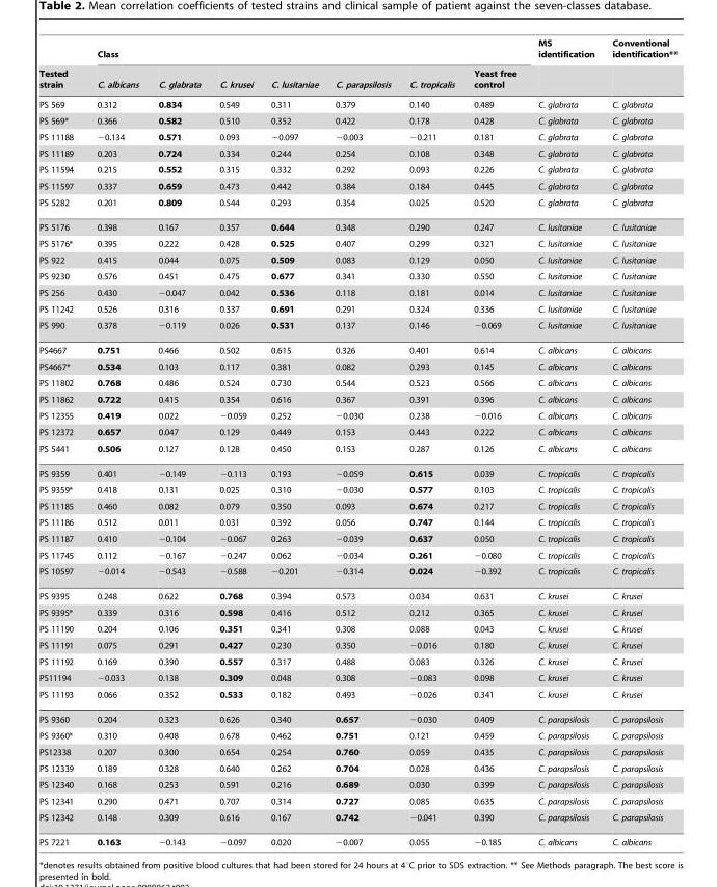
<table><thead><tr><td rowspan="2">Tested strain</td><td colspan="7">Class</td><td rowspan="2">MS identification</td><td rowspan="2">Conventional identification**</td></tr><tr><td>C. albicans</td><td>C. glabrata</td><td>C. krusei</td><td>C. lusitaniae</td><td>C. parapsilosis</td><td>C. tropicalis</td><td>Yeast free control</td></tr></thead><tbody><tr><td>PS 569</td><td>0.312</td><td>0.834</td><td>0.549</td><td>0.311</td><td>0.379</td><td>0.140</td><td>0.489</td><td>C. glabrata</td><td>C. glabrata</td></tr><tr><td>PS 569*</td><td>0.366</td><td>0.582</td><td>0.510</td><td>0.352</td><td>0.422</td><td>0.178</td><td>0.428</td><td>C. glabrata</td><td>C. glabrata</td></tr><tr><td>PS 11188</td><td>−0.134</td><td>0.571</td><td>0.093</td><td>−0.097</td><td>−0.003</td><td>−0.211</td><td>0.181</td><td>C. glabrata</td><td>C. glabrata</td></tr><tr><td>PS 11189</td><td>0.203</td><td>0.724</td><td>0.334</td><td>0.244</td><td>0.254</td><td>0.108</td><td>0.348</td><td>C. glabrata</td><td>C. glabrata</td></tr><tr><td>PS 11594</td><td>0.215</td><td>0.552</td><td>0.315</td><td>0.332</td><td>0.292</td><td>0.093</td><td>0.226</td><td>C. glabrata</td><td>C. glabrata</td></tr><tr><td>PS 11597</td><td>0.337</td><td>0.659</td><td>0.473</td><td>0.442</td><td>0.384</td><td>0.184</td><td>0.445</td><td>C. glabrata</td><td>C. glabrata</td></tr><tr><td>PS 5282</td><td>0.201</td><td>0.809</td><td>0.544</td><td>0.293</td><td>0.354</td><td>0.025</td><td>0.520</td><td>C. glabrata</td><td>C. glabrata</td></tr><tr><td>PS 5176</td><td>0.398</td><td>0.167</td><td>0.357</td><td>0.644</td><td>0.348</td><td>0.290</td><td>0.247</td><td>C. lusitaniae</td><td>C. lusitaniae</td></tr><tr><td>PS 5176*</td><td>0.395</td><td>0.222</td><td>0.428</td><td>0.525</td><td>0.407</td><td>0.299</td><td>0.321</td><td>C. lusitaniae</td><td>C. lusitaniae</td></tr><tr><td>PS 922</td><td>0.415</td><td>0.044</td><td>0.075</td><td>0.509</td><td>0.083</td><td>0.129</td><td>0.050</td><td>C. lusitaniae</td><td>C. lusitaniae</td></tr><tr><td>PS 9230</td><td>0.576</td><td>0.451</td><td>0.475</td><td>0.677</td><td>0.341</td><td>0.330</td><td>0.550</td><td>C. lusitaniae</td><td>C. lusitaniae</td></tr><tr><td>PS 256</td><td>0.430</td><td>−0.047</td><td>0.042</td><td>0.536</td><td>0.118</td><td>0.181</td><td>0.014</td><td>C. lusitaniae</td><td>C. lusitaniae</td></tr><tr><td>PS 11242</td><td>0.526</td><td>0.316</td><td>0.337</td><td>0.691</td><td>0.291</td><td>0.324</td><td>0.336</td><td>C. lusitaniae</td><td>C. lusitaniae</td></tr><tr><td>PS 990</td><td>0.378</td><td>−0.119</td><td>0.026</td><td>0.531</td><td>0.137</td><td>0.146</td><td>−0.069</td><td>C. lusitaniae</td><td>C. lusitaniae</td></tr><tr><td>PS4667</td><td>0.751</td><td>0.466</td><td>0.502</td><td>0.615</td><td>0.326</td><td>0.401</td><td>0.614</td><td>C. albicans</td><td>C. albicans</td></tr><tr><td>PS4667*</td><td>0.534</td><td>0.103</td><td>0.117</td><td>0.381</td><td>0.082</td><td>0.293</td><td>0.145</td><td>C. albicans</td><td>C. albicans</td></tr><tr><td>PS 11802</td><td>0.768</td><td>0.486</td><td>0.524</td><td>0.730</td><td>0.544</td><td>0.523</td><td>0.566</td><td>C. albicans</td><td>C. albicans</td></tr><tr><td>PS 11862</td><td>0.722</td><td>0.415</td><td>0.354</td><td>0.616</td><td>0.367</td><td>0.391</td><td>0.396</td><td>C. albicans</td><td>C. albicans</td></tr><tr><td>PS 12355</td><td>0.419</td><td>0.022</td><td>−0.059</td><td>0.252</td><td>−0.030</td><td>0.238</td><td>−0.016</td><td>C. albicans</td><td>C. albicans</td></tr><tr><td>PS 12372</td><td>0.657</td><td>0.047</td><td>0.129</td><td>0.449</td><td>0.153</td><td>0.443</td><td>0.222</td><td>C. albicans</td><td>C. albicans</td></tr><tr><td>PS 5441</td><td>0.506</td><td>0.127</td><td>0.128</td><td>0.450</td><td>0.153</td><td>0.287</td><td>0.126</td><td>C. albicans</td><td>C. albicans</td></tr><tr><td>PS 9359</td><td>0.401</td><td>−0.149</td><td>−0.113</td><td>0.193</td><td>−0.059</td><td>0.615</td><td>0.039</td><td>C. tropicalis</td><td>C. tropicalis</td></tr><tr><td>PS 9359*</td><td>0.418</td><td>0.131</td><td>0.025</td><td>0.310</td><td>−0.030</td><td>0.577</td><td>0.103</td><td>C. tropicalis</td><td>C. tropicalis</td></tr><tr><td>PS 11185</td><td>0.460</td><td>0.082</td><td>0.079</td><td>0.350</td><td>0.093</td><td>0.674</td><td>0.217</td><td>C. tropicalis</td><td>C. tropicalis</td></tr><tr><td>PS 11186</td><td>0.512</td><td>0.011</td><td>0.031</td><td>0.392</td><td>0.056</td><td>0.747</td><td>0.144</td><td>C. tropicalis</td><td>C. tropicalis</td></tr><tr><td>PS 11187</td><td>0.410</td><td>−0.104</td><td>−0.067</td><td>0.263</td><td>−0.039</td><td>0.637</td><td>0.050</td><td>C. tropicalis</td><td>C. tropicalis</td></tr><tr><td>PS 11745</td><td>0.112</td><td>−0.167</td><td>−0.247</td><td>0.062</td><td>−0.034</td><td>0.261</td><td>−0.080</td><td>C. tropicalis</td><td>C. tropicalis</td></tr><tr><td>PS 10597</td><td>−0.014</td><td>−0.543</td><td>−0.588</td><td>−0.201</td><td>−0.314</td><td>0.024</td><td>−0.392</td><td>C. tropicalis</td><td>C. tropicalis</td></tr><tr><td>PS 9395</td><td>0.248</td><td>0.622</td><td>0.768</td><td>0.394</td><td>0.573</td><td>0.034</td><td>0.631</td><td>C. krusei</td><td>C. krusei</td></tr><tr><td>PS 9395*</td><td>0.339</td><td>0.316</td><td>0.598</td><td>0.416</td><td>0.512</td><td>0.212</td><td>0.365</td><td>C. krusei</td><td>C. krusei</td></tr><tr><td>PS 11190</td><td>0.204</td><td>0.106</td><td>0.351</td><td>0.341</td><td>0.308</td><td>0.088</td><td>0.043</td><td>C. krusei</td><td>C. krusei</td></tr><tr><td>PS 11191</td><td>0.075</td><td>0.291</td><td>0.427</td><td>0.230</td><td>0.350</td><td>−0.016</td><td>0.180</td><td>C. krusei</td><td>C. krusei</td></tr><tr><td>PS 11192</td><td>0.169</td><td>0.390</td><td>0.557</td><td>0.317</td><td>0.488</td><td>0.083</td><td>0.326</td><td>C. krusei</td><td>C. krusei</td></tr><tr><td>PS11194</td><td>−0.033</td><td>0.138</td><td>0.309</td><td>0.048</td><td>0.308</td><td>−0.083</td><td>0.098</td><td>C. krusei</td><td>C. krusei</td></tr><tr><td>PS 11193</td><td>0.066</td><td>0.352</td><td>0.533</td><td>0.182</td><td>0.493</td><td>−0.026</td><td>0.341</td><td>C. krusei</td><td>C. krusei</td></tr><tr><td>PS 9360</td><td>0.204</td><td>0.323</td><td>0.626</td><td>0.340</td><td>0.657</td><td>−0.030</td><td>0.409</td><td>C. parapsilosis</td><td>C. parapsilosis</td></tr><tr><td>PS 9360*</td><td>0.310</td><td>0.408</td><td>0.678</td><td>0.462</td><td>0.751</td><td>0.121</td><td>0.459</td><td>C. parapsilosis</td><td>C. parapsilosis</td></tr><tr><td>PS12338</td><td>0.207</td><td>0.300</td><td>0.654</td><td>0.254</td><td>0.760</td><td>0.059</td><td>0.435</td><td>C. parapsilosis</td><td>C. parapsilosis</td></tr><tr><td>PS 12339</td><td>0.189</td><td>0.328</td><td>0.640</td><td>0.262</td><td>0.704</td><td>0.028</td><td>0.436</td><td>C. parapsilosis</td><td>C. parapsilosis</td></tr><tr><td>PS 12340</td><td>0.168</td><td>0.253</td><td>0.591</td><td>0.216</td><td>0.689</td><td>0.030</td><td>0.399</td><td>C. parapsilosis</td><td>C. parapsilosis</td></tr><tr><td>PS 12341</td><td>0.290</td><td>0.471</td><td>0.707</td><td>0.314</td><td>0.727</td><td>0.085</td><td>0.635</td><td>C. parapsilosis</td><td>C. parapsilosis</td></tr><tr><td>PS 12342</td><td>0.148</td><td>0.309</td><td>0.616</td><td>0.167</td><td>0.742</td><td>−0.041</td><td>0.390</td><td>C. parapsilosis</td><td>C. parapsilosis</td></tr><tr><td>PS 7221</td><td>0.163</td><td>−0.143</td><td>−0.097</td><td>0.020</td><td>−0.007</td><td>0.055</td><td>−0.185</td><td>C. albicans</td><td>C. albicans</td></tr></tbody></table>